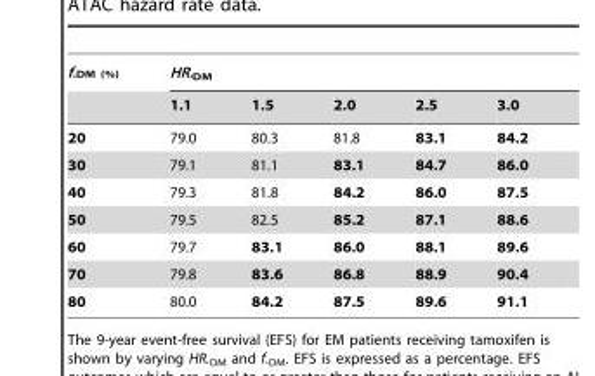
<table><thead><tr><td rowspan="2">f.<sub>DM (%)</sub></td><td colspan="5">HR.<sub>DM</sub></td></tr><tr><td>1.1</td><td>1.5</td><td>2.0</td><td>2.5</td><td>3.0</td></tr></thead><tbody><tr><td>20</td><td>79.0</td><td>80.3</td><td>81.8</td><td>83.1</td><td>84.2</td></tr><tr><td>30</td><td>79.1</td><td>81.1</td><td>83.1</td><td>84.7</td><td>86.0</td></tr><tr><td>40</td><td>79.3</td><td>81.8</td><td>84.2</td><td>86.0</td><td>87.5</td></tr><tr><td>50</td><td>79.5</td><td>82.5</td><td>85.2</td><td>87.1</td><td>88.6</td></tr><tr><td>60</td><td>79.7</td><td>83.1</td><td>86.0</td><td>88.1</td><td>89.6</td></tr><tr><td>70</td><td>79.8</td><td>83.6</td><td>86.8</td><td>88.9</td><td>90.4</td></tr><tr><td>80</td><td>80.0</td><td>84.2</td><td>87.5</td><td>89.6</td><td>91.1</td></tr></tbody></table>